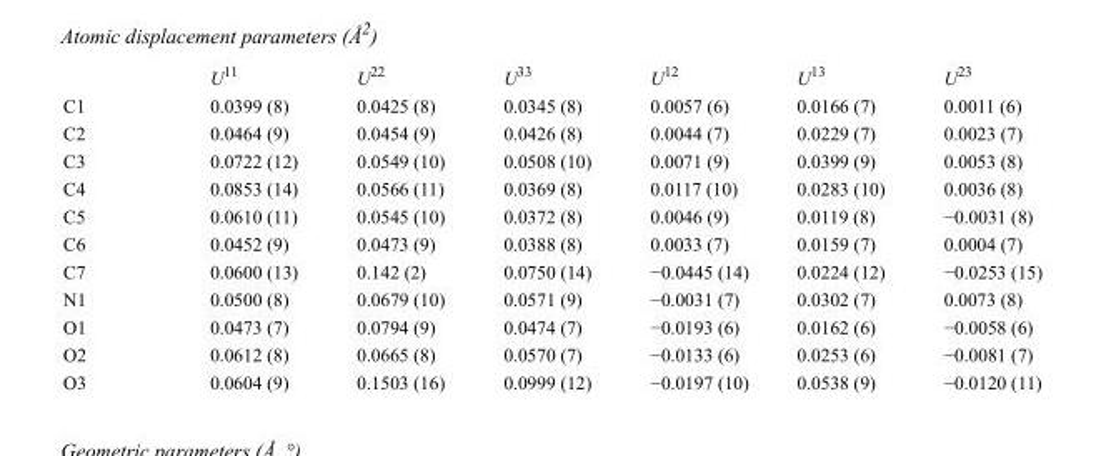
<table><thead><tr><td></td><td>U<sup>11</sup></td><td>U<sup>22</sup></td><td>U<sup>33</sup></td><td>U<sup>12</sup></td><td>U<sup>13</sup></td><td>U<sup>23</sup></td></tr></thead><tbody><tr><td>C1</td><td>0.0399 (8)</td><td>0.0425 (8)</td><td>0.0345 (8)</td><td>0.0057 (6)</td><td>0.0166 (7)</td><td>0.0011 (6)</td></tr><tr><td>C2</td><td>0.0464 (9)</td><td>0.0454 (9)</td><td>0.0426 (8)</td><td>0.0044 (7)</td><td>0.0229 (7)</td><td>0.0023 (7)</td></tr><tr><td>C3</td><td>0.0722 (12)</td><td>0.0549 (10)</td><td>0.0508 (10)</td><td>0.0071 (9)</td><td>0.0399 (9)</td><td>0.0053 (8)</td></tr><tr><td>C4</td><td>0.0853 (14)</td><td>0.0566 (11)</td><td>0.0369 (8)</td><td>0.0117 (10)</td><td>0.0283 (10)</td><td>0.0036 (8)</td></tr><tr><td>C5</td><td>0.0610 (11)</td><td>0.0545 (10)</td><td>0.0372 (8)</td><td>0.0046 (9)</td><td>0.0119 (8)</td><td>−0.0031 (8)</td></tr><tr><td>C6</td><td>0.0452 (9)</td><td>0.0473 (9)</td><td>0.0388 (8)</td><td>0.0033 (7)</td><td>0.0159 (7)</td><td>0.0004 (7)</td></tr><tr><td>C7</td><td>0.0600 (13)</td><td>0.142 (2)</td><td>0.0750 (14)</td><td>−0.0445 (14)</td><td>0.0224 (12)</td><td>−0.0253 (15)</td></tr><tr><td>N1</td><td>0.0500 (8)</td><td>0.0679 (10)</td><td>0.0571 (9)</td><td>−0.0031 (7)</td><td>0.0302 (7)</td><td>0.0073 (8)</td></tr><tr><td>O1</td><td>0.0473 (7)</td><td>0.0794 (9)</td><td>0.0474 (7)</td><td>−0.0193 (6)</td><td>0.0162 (6)</td><td>−0.0058 (6)</td></tr><tr><td>O2</td><td>0.0612 (8)</td><td>0.0665 (8)</td><td>0.0570 (7)</td><td>−0.0133 (6)</td><td>0.0253 (6)</td><td>−0.0081 (7)</td></tr><tr><td>O3</td><td>0.0604 (9)</td><td>0.1503 (16)</td><td>0.0999 (12)</td><td>−0.0197 (10)</td><td>0.0538 (9)</td><td>−0.0120 (11)</td></tr></tbody></table>